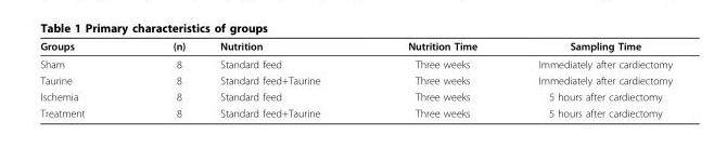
<table><thead><tr><td>Groups</td><td>(n)</td><td>Nutrition</td><td>Nutrition Time</td><td>Sampling Time</td></tr></thead><tbody><tr><td>Sham</td><td>8</td><td>Standard feed</td><td>Three weeks</td><td>Immediately after cardiectomy</td></tr><tr><td>Taurine</td><td>8</td><td>Standard feed+Taurine</td><td>Three weeks</td><td>Immediately after cardiectomy</td></tr><tr><td>Ischemia</td><td>8</td><td>Standard feed</td><td>Three weeks</td><td>5 hours after cardiectomy</td></tr><tr><td>Treatment</td><td>8</td><td>Standard feed+Taurine</td><td>Three weeks</td><td>5 hours after cardiectomy</td></tr></tbody></table>